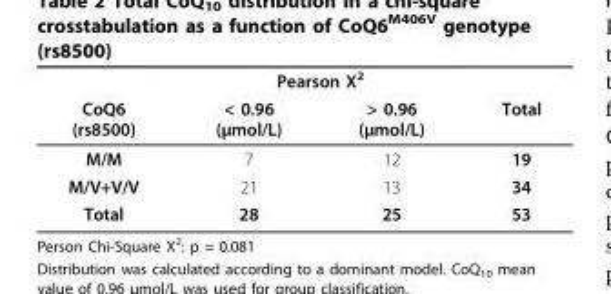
<table><thead><tr><td rowspan="2">CoQ6 (rs8500)</td><td colspan="2">Pearson Χ<sup>2</sup></td><td rowspan="2">Total</td></tr><tr><td>&lt; 0.96 (μmol/L)</td><td>&gt; 0.96 (μmol/L)</td></tr></thead><tbody><tr><td>M/M</td><td>7</td><td>12</td><td>19</td></tr><tr><td>M/V+V/V</td><td>21</td><td>13</td><td>34</td></tr><tr><td>Total</td><td>28</td><td>25</td><td>53</td></tr></tbody></table>